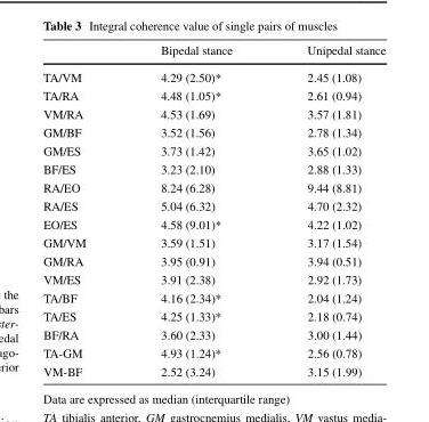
<table><thead><tr><td></td><td>Bipedal stance</td><td>Unipedal stance</td></tr></thead><tbody><tr><td>TA/VM</td><td>4.29 (2.50)*</td><td>2.45 (1.08)</td></tr><tr><td>TA/RA</td><td>4.48 (1.05)*</td><td>2.61 (0.94)</td></tr><tr><td>VM/RA</td><td>4.53 (1.69)</td><td>3.57 (1.81)</td></tr><tr><td>GM/BF</td><td>3.52 (1.56)</td><td>2.78 (1.34)</td></tr><tr><td>GM/ES</td><td>3.73 (1.42)</td><td>3.65 (1.02)</td></tr><tr><td>BF/ES</td><td>3.23 (2.10)</td><td>2.88 (1.33)</td></tr><tr><td>RA/EO</td><td>8.24 (6.28)</td><td>9.44 (8.81)</td></tr><tr><td>RA/ES</td><td>5.04 (6.32)</td><td>4.70 (2.32)</td></tr><tr><td>EO/ES</td><td>4.58 (9.01)*</td><td>4.22 (1.02)</td></tr><tr><td>GM/VM</td><td>3.59 (1.51)</td><td>3.17 (1.54)</td></tr><tr><td>GM/RA</td><td>3.95 (0.91)</td><td>3.94 (0.51)</td></tr><tr><td>VM/ES</td><td>3.91 (2.38)</td><td>2.92 (1.73)</td></tr><tr><td>TA/BF</td><td>4.16 (2.34)*</td><td>2.04 (1.24)</td></tr><tr><td>TA/ES</td><td>4.25 (1.33)*</td><td>2.18 (0.74)</td></tr><tr><td>BF/RA</td><td>3.60 (2.33)</td><td>3.00 (1.44)</td></tr><tr><td>TA-GM</td><td>4.93 (1.24)*</td><td>2.56 (0.78)</td></tr><tr><td>VM-BF</td><td>2.52 (3.24)</td><td>3.15 (1.99)</td></tr></tbody></table>